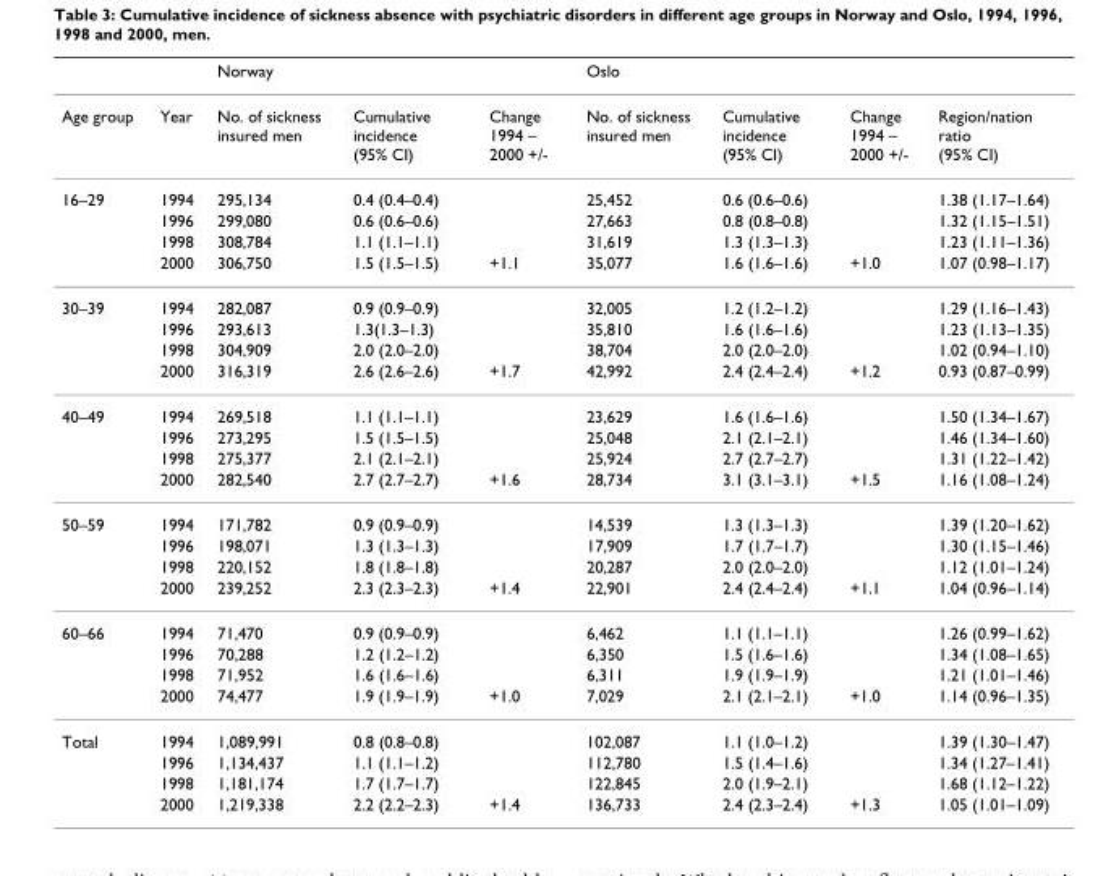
<table><thead><tr><td></td><td></td><td>Norway</td><td></td><td></td><td>Oslo</td><td></td><td></td><td></td></tr></thead><tbody><tr><td>Age group</td><td>Year</td><td>No. of sickness insured men</td><td>Cumulative incidence (95% CI)</td><td>Change 1994 – 2000 +/-</td><td>No. of sickness insured men</td><td>Cumulative incidence (95% CI)</td><td>Change 1994 – 2000 +/-</td><td>Region/nation ratio (95% CI)</td></tr><tr><td rowspan="4">16–29</td><td>1994</td><td>295,134</td><td>0.4 (0.4–0.4)</td><td></td><td>25,452</td><td>0.6 (0.6–0.6)</td><td></td><td>1.38 (1.17–1.64)</td></tr><tr><td>1996</td><td>299,080</td><td>0.6 (0.6–0.6)</td><td></td><td>27,663</td><td>0.8 (0.8–0.8)</td><td></td><td>1.32 (1.15–1.51)</td></tr><tr><td>1998</td><td>308,784</td><td>1.1 (1.1–1.1)</td><td></td><td>31,619</td><td>1.3 (1.3–1.3)</td><td></td><td>1.23 (1.11–1.36)</td></tr><tr><td>2000</td><td>306,750</td><td>1.5 (1.5–1.5)</td><td>+1.1</td><td>35,077</td><td>1.6 (1.6–1.6)</td><td>+1.0</td><td>1.07 (0.98–1.17)</td></tr><tr><td rowspan="4">30–39</td><td>1994</td><td>282,087</td><td>0.9 (0.9–0.9)</td><td></td><td>32,005</td><td>1.2 (1.2–1.2)</td><td></td><td>1.29 (1.16–1.43)</td></tr><tr><td>1996</td><td>293,613</td><td>1.3(1.3–1.3)</td><td></td><td>35,810</td><td>1.6 (1.6–1.6)</td><td></td><td>1.23 (1.13–1.35)</td></tr><tr><td>1998</td><td>304,909</td><td>2.0 (2.0–2.0)</td><td></td><td>38,704</td><td>2.0 (2.0–2.0)</td><td></td><td>1.02 (0.94–1.10)</td></tr><tr><td>2000</td><td>316,319</td><td>2.6 (2.6–2.6)</td><td>+1.7</td><td>42,992</td><td>2.4 (2.4–2.4)</td><td>+1.2</td><td>0.93 (0.87–0.99)</td></tr><tr><td rowspan="4">40–49</td><td>1994</td><td>269,518</td><td>1.1 (1.1–1.1)</td><td></td><td>23,629</td><td>1.6 (1.6–1.6)</td><td></td><td>1.50 (1.34–1.67)</td></tr><tr><td>1996</td><td>273,295</td><td>1.5 (1.5–1.5)</td><td></td><td>25,048</td><td>2.1 (2.1–2.1)</td><td></td><td>1.46 (1.34–1.60)</td></tr><tr><td>1998</td><td>275,377</td><td>2.1 (2.1–2.1)</td><td></td><td>25,924</td><td>2.7 (2.7–2.7)</td><td></td><td>1.31 (1.22–1.42)</td></tr><tr><td>2000</td><td>282,540</td><td>2.7 (2.7–2.7)</td><td>+1.6</td><td>28,734</td><td>3.1 (3.1–3.1)</td><td>+1.5</td><td>1.16 (1.08–1.24)</td></tr><tr><td rowspan="4">50–59</td><td>1994</td><td>171,782</td><td>0.9 (0.9–0.9)</td><td></td><td>14,539</td><td>1.3 (1.3–1.3)</td><td></td><td>1.39 (1.20–1.62)</td></tr><tr><td>1996</td><td>198,071</td><td>1.3 (1.3–1.3)</td><td></td><td>17,909</td><td>1.7 (1.7–1.7)</td><td></td><td>1.30 (1.15–1.46)</td></tr><tr><td>1998</td><td>220,152</td><td>1.8 (1.8–1.8)</td><td></td><td>20,287</td><td>2.0 (2.0–2.0)</td><td></td><td>1.12 (1.01–1.24)</td></tr><tr><td>2000</td><td>239,252</td><td>2.3 (2.3–2.3)</td><td>+1.4</td><td>22,901</td><td>2.4 (2.4–2.4)</td><td>+1.1</td><td>1.04 (0.96–1.14)</td></tr><tr><td rowspan="4">60–66</td><td>1994</td><td>71,470</td><td>0.9 (0.9–0.9)</td><td></td><td>6,462</td><td>1.1 (1.1–1.1)</td><td></td><td>1.26 (0.99–1.62)</td></tr><tr><td>1996</td><td>70,288</td><td>1.2 (1.2–1.2)</td><td></td><td>6,350</td><td>1.5 (1.6–1.6)</td><td></td><td>1.34 (1.08–1.65)</td></tr><tr><td>1998</td><td>71,952</td><td>1.6 (1.6–1.6)</td><td></td><td>6,311</td><td>1.9 (1.9–1.9)</td><td></td><td>1.21 (1.01–1.46)</td></tr><tr><td>2000</td><td>74,477</td><td>1.9 (1.9–1.9)</td><td>+1.0</td><td>7,029</td><td>2.1 (2.1–2.1)</td><td>+1.0</td><td>1.14 (0.96–1.35)</td></tr><tr><td rowspan="4">Total</td><td>1994</td><td>1,089,991</td><td>0.8 (0.8–0.8)</td><td></td><td>102,087</td><td>1.1 (1.0–1.2)</td><td></td><td>1.39 (1.30–1.47)</td></tr><tr><td>1996</td><td>1,134,437</td><td>1.1 (1.1–1.2)</td><td></td><td>112,780</td><td>1.5 (1.4–1.6)</td><td></td><td>1.34 (1.27–1.41)</td></tr><tr><td>1998</td><td>1,181,174</td><td>1.7 (1.7–1.7)</td><td></td><td>122,845</td><td>2.0 (1.9–2.1)</td><td></td><td>1.68 (1.12–1.22)</td></tr><tr><td>2000</td><td>1,219,338</td><td>2.2 (2.2–2.3)</td><td>+1.4</td><td>136,733</td><td>2.4 (2.3–2.4)</td><td>+1.3</td><td>1.05 (1.01–1.09)</td></tr></tbody></table>